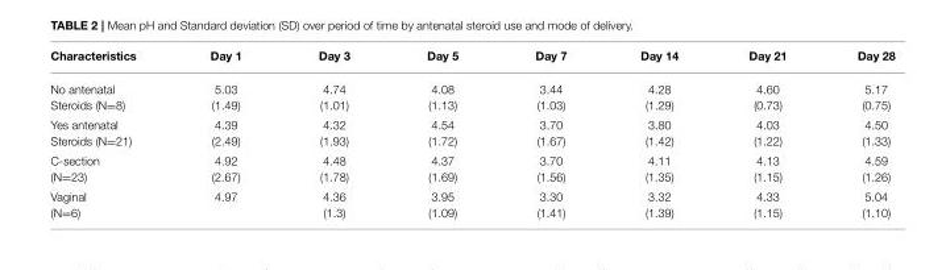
<table><thead><tr><td>Characteristics</td><td>Day 1</td><td>Day 3</td><td>Day 5</td><td>Day 7</td><td>Day 14</td><td>Day 21</td><td>Day 28</td></tr></thead><tbody><tr><td>No antenatal Steroids (N=8)</td><td>5.03 (1.49)</td><td>4.74 (1.01)</td><td>4.08 (1.13)</td><td>3.44 (1.03)</td><td>4.28 (1.29)</td><td>4.60 (0.73)</td><td>5.17 (0.75)</td></tr><tr><td>Yes antenatal Steroids (N=21)</td><td>4.39 (2.49)</td><td>4.32 (1.93)</td><td>4.54 (1.72)</td><td>3.70 (1.67)</td><td>3.80 (1.42)</td><td>4.03 (1.22)</td><td>4.50 (1.33)</td></tr><tr><td>C-section (N=23)</td><td>4.92 (2.67)</td><td>4.48 (1.78)</td><td>4.37 (1.69)</td><td>3.70 (1.56)</td><td>4.11 (1.35)</td><td>4.13 (1.15)</td><td>4.59 (1.26)</td></tr><tr><td>Vaginal (N=6)</td><td>4.97</td><td>4.36 (1.3)</td><td>3.95 (1.09)</td><td>3.30 (1.41)</td><td>3.32 (1.39)</td><td>4.33 (1.15)</td><td>5.04 (1.10)</td></tr></tbody></table>